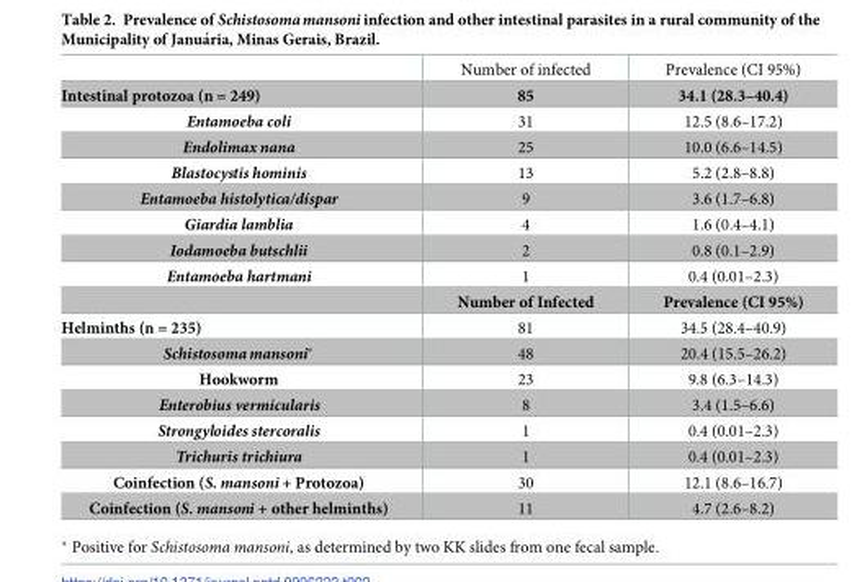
<table><thead><tr><td></td><td>Number of infected</td><td>Prevalence (CI 95%)</td></tr></thead><tbody><tr><td>Intestinal protozoa (n = 249)</td><td>85</td><td>34.1 (28.3–40.4)</td></tr><tr><td>Entamoeba coli</td><td>31</td><td>12.5 (8.6–17.2)</td></tr><tr><td>Endolimax nana</td><td>25</td><td>10.0 (6.6–14.5)</td></tr><tr><td>Blastocystis hominis</td><td>13</td><td>5.2 (2.8–8.8)</td></tr><tr><td>Entamoeba histolytica/díspar</td><td>9</td><td>3.6 (1.7–6.8)</td></tr><tr><td>Giardia lamblia</td><td>4</td><td>1.6 (0.4–4.1)</td></tr><tr><td>Iodamoeba butschlii</td><td>2</td><td>0.8 (0.1–2.9)</td></tr><tr><td rowspan="2">Entamoeba hartmani</td><td>1</td><td>0.4 (0.01–2.3)</td></tr><tr><td>Number of Infected</td><td>Prevalence (CI 95%)</td></tr><tr><td>Helminths (n = 235)</td><td>81</td><td>34.5 (28.4–40.9)</td></tr><tr><td>Schistosoma mansoni*</td><td>48</td><td>20.4 (15.5–26.2)</td></tr><tr><td>Hookworm</td><td>23</td><td>9.8 (6.3–14.3)</td></tr><tr><td>Enterobius vermicularis</td><td>8</td><td>3.4 (1.5–6.6)</td></tr><tr><td>Strongyloides stercoralis</td><td>1</td><td>0.4 (0.01–2.3)</td></tr><tr><td>Trichuris trichiura</td><td>1</td><td>0.4 (0.01–2.3)</td></tr><tr><td>Coinfection (S. mansoni + Protozoa)</td><td>30</td><td>12.1 (8.6–16.7)</td></tr><tr><td>Coinfection (S. mansoni + other helminths)</td><td>11</td><td>4.7 (2.6–8.2)</td></tr></tbody></table>